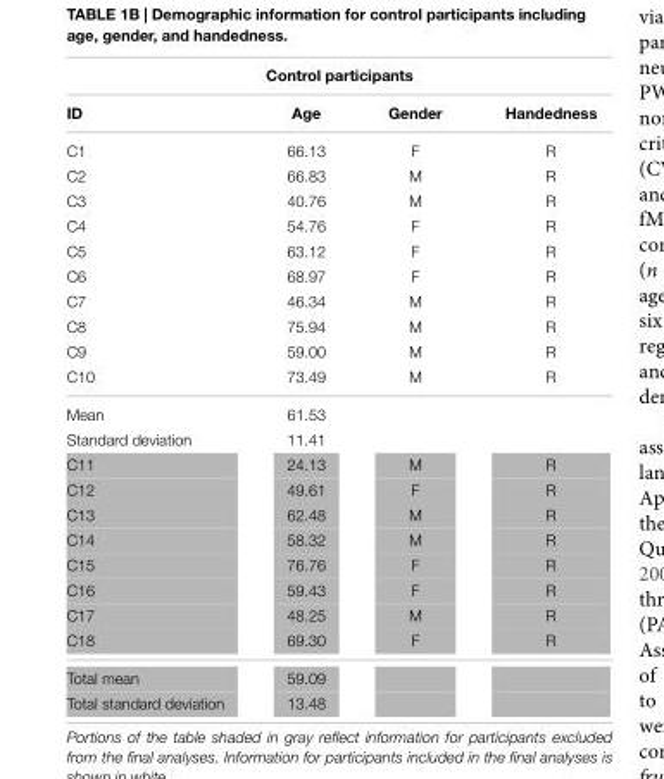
<table><thead><tr><td colspan="4">Control participants</td></tr><tr><td>ID</td><td>Age</td><td>Gender</td><td>Handedness</td></tr></thead><tbody><tr><td>C1</td><td>66.13</td><td>F</td><td>R</td></tr><tr><td>C2</td><td>66.83</td><td>M</td><td>R</td></tr><tr><td>C3</td><td>40.76</td><td>M</td><td>R</td></tr><tr><td>C4</td><td>54.76</td><td>F</td><td>R</td></tr><tr><td>C5</td><td>63.12</td><td>F</td><td>R</td></tr><tr><td>C6</td><td>68.97</td><td>F</td><td>R</td></tr><tr><td>C7</td><td>46.34</td><td>M</td><td>R</td></tr><tr><td>C8</td><td>75.94</td><td>M</td><td>R</td></tr><tr><td>C9</td><td>59.00</td><td>M</td><td>R</td></tr><tr><td>C10</td><td>73.49</td><td>M</td><td>R</td></tr><tr><td>Mean</td><td>61.53</td><td></td><td></td></tr><tr><td>Standard deviation</td><td>11.41</td><td></td><td></td></tr><tr><td>C11</td><td>24.13</td><td>M</td><td>R</td></tr><tr><td>C12</td><td>49.61</td><td>F</td><td>R</td></tr><tr><td>C13</td><td>62.48</td><td>M</td><td>R</td></tr><tr><td>C14</td><td>58.32</td><td>M</td><td>R</td></tr><tr><td>C15</td><td>76.76</td><td>F</td><td>R</td></tr><tr><td>C16</td><td>59.43</td><td>F</td><td>R</td></tr><tr><td>C17</td><td>48.25</td><td>M</td><td>R</td></tr><tr><td>C18</td><td>69.30</td><td>F</td><td>R</td></tr><tr><td>Total mean</td><td>59.09</td><td></td><td></td></tr><tr><td>Total standard deviation</td><td>13.48</td><td></td><td></td></tr></tbody></table>